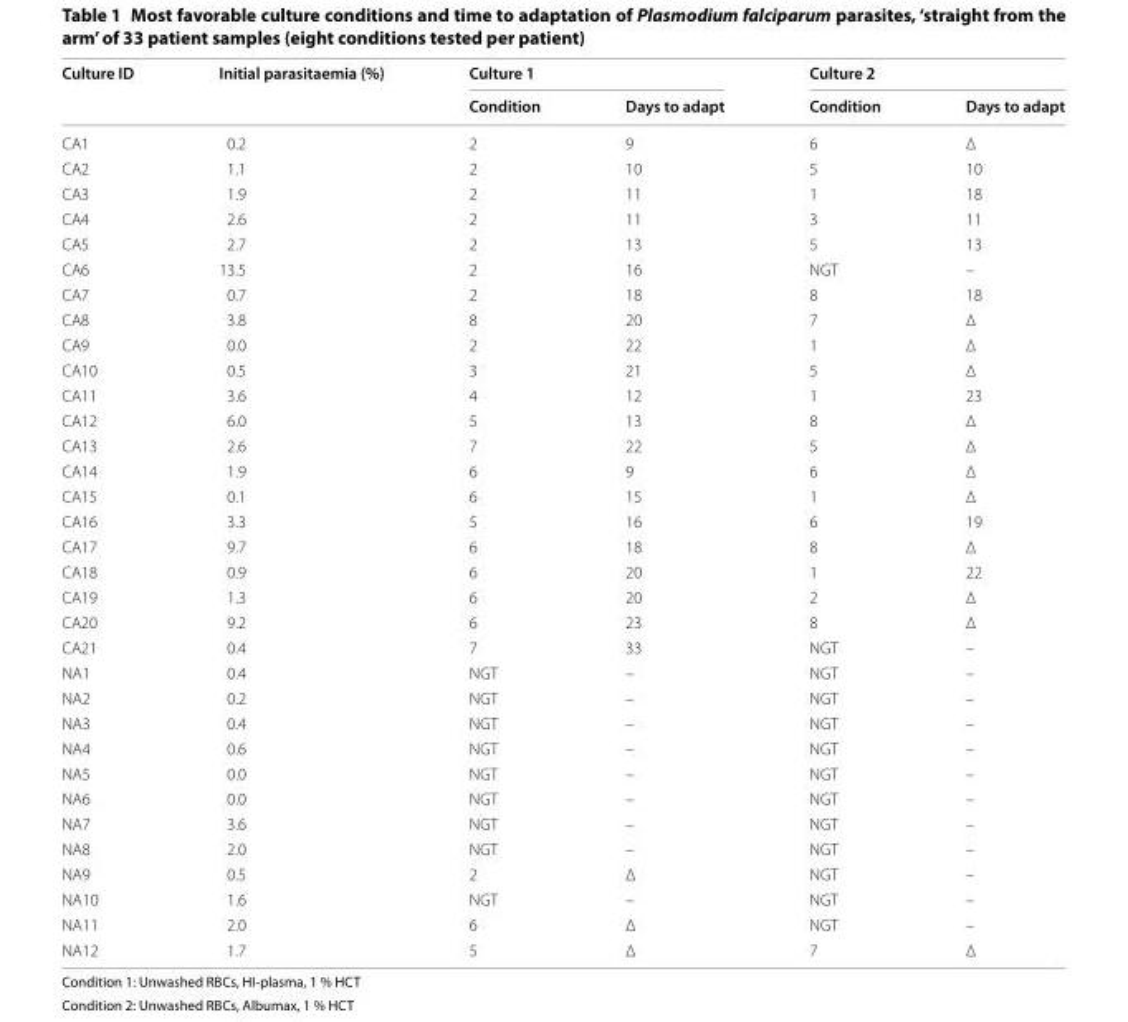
<table><thead><tr><td rowspan="2">Culture ID</td><td rowspan="2">Initial parasitaemia (%)</td><td colspan="2">Culture 1</td><td colspan="2">Culture 2</td></tr><tr><td>Condition</td><td>Days to adapt</td><td>Condition</td><td>Days to adapt</td></tr></thead><tbody><tr><td>CA1</td><td>0.2</td><td>2</td><td>9</td><td>6</td><td>Δ</td></tr><tr><td>CA2</td><td>1.1</td><td>2</td><td>10</td><td>5</td><td>10</td></tr><tr><td>CA3</td><td>1.9</td><td>2</td><td>11</td><td>1</td><td>18</td></tr><tr><td>CA4</td><td>2.6</td><td>2</td><td>11</td><td>3</td><td>11</td></tr><tr><td>CA5</td><td>2.7</td><td>2</td><td>13</td><td>5</td><td>13</td></tr><tr><td>CA6</td><td>13.5</td><td>2</td><td>16</td><td>NGT</td><td>–</td></tr><tr><td>CA7</td><td>0.7</td><td>2</td><td>18</td><td>8</td><td>18</td></tr><tr><td>CA8</td><td>3.8</td><td>8</td><td>20</td><td>7</td><td>Δ</td></tr><tr><td>CA9</td><td>0.0</td><td>2</td><td>22</td><td>1</td><td>Δ</td></tr><tr><td>CA10</td><td>0.5</td><td>3</td><td>21</td><td>5</td><td>Δ</td></tr><tr><td>CA11</td><td>3.6</td><td>4</td><td>12</td><td>1</td><td>23</td></tr><tr><td>CA12</td><td>6.0</td><td>5</td><td>13</td><td>8</td><td>Δ</td></tr><tr><td>CA13</td><td>2.6</td><td>7</td><td>22</td><td>5</td><td>Δ</td></tr><tr><td>CA14</td><td>1.9</td><td>6</td><td>9</td><td>6</td><td>Δ</td></tr><tr><td>CA15</td><td>0.1</td><td>6</td><td>15</td><td>1</td><td>Δ</td></tr><tr><td>CA16</td><td>3.3</td><td>5</td><td>16</td><td>6</td><td>19</td></tr><tr><td>CA17</td><td>9.7</td><td>6</td><td>18</td><td>8</td><td>Δ</td></tr><tr><td>CA18</td><td>0.9</td><td>6</td><td>20</td><td>1</td><td>22</td></tr><tr><td>CA19</td><td>1.3</td><td>6</td><td>20</td><td>2</td><td>Δ</td></tr><tr><td>CA20</td><td>9.2</td><td>6</td><td>23</td><td>8</td><td>Δ</td></tr><tr><td>CA21</td><td>0.4</td><td>7</td><td>33</td><td>NGT</td><td>–</td></tr><tr><td>NA1</td><td>0.4</td><td>NGT</td><td>–</td><td>NGT</td><td>–</td></tr><tr><td>NA2</td><td>0.2</td><td>NGT</td><td>–</td><td>NGT</td><td>–</td></tr><tr><td>NA3</td><td>0.4</td><td>NGT</td><td>–</td><td>NGT</td><td>–</td></tr><tr><td>NA4</td><td>0.6</td><td>NGT</td><td>–</td><td>NGT</td><td>–</td></tr><tr><td>NA5</td><td>0.0</td><td>NGT</td><td>–</td><td>NGT</td><td>–</td></tr><tr><td>NA6</td><td>0.0</td><td>NGT</td><td>–</td><td>NGT</td><td>–</td></tr><tr><td>NA7</td><td>3.6</td><td>NGT</td><td>–</td><td>NGT</td><td>–</td></tr><tr><td>NA8</td><td>2.0</td><td>NGT</td><td>–</td><td>NGT</td><td>–</td></tr><tr><td>NA9</td><td>0.5</td><td>2</td><td>Δ</td><td>NGT</td><td>–</td></tr><tr><td>NA10</td><td>1.6</td><td>NGT</td><td>–</td><td>NGT</td><td>–</td></tr><tr><td>NA11</td><td>2.0</td><td>6</td><td>Δ</td><td>NGT</td><td>–</td></tr><tr><td>NA12</td><td>1.7</td><td>5</td><td>Δ</td><td>7</td><td>Δ</td></tr></tbody></table>